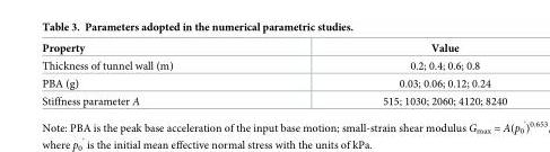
<table><thead><tr><td>Property</td><td>Value</td></tr></thead><tbody><tr><td>Thickness of tunnel wall (m)</td><td>0.2; 0.4; 0.6; 0.8</td></tr><tr><td>PBA (g)</td><td>0.03; 0.06; 0.12; 0.24</td></tr><tr><td>Stiffness parameter A</td><td>515; 1030; 2060; 4120; 8240</td></tr></tbody></table>